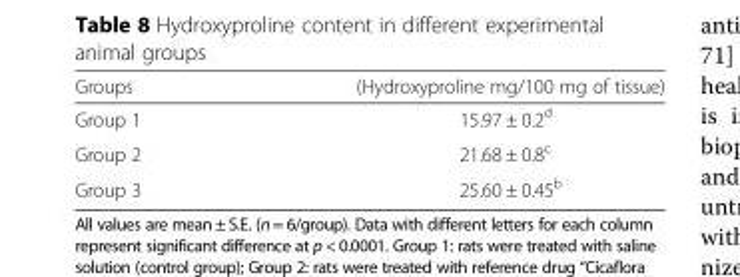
<table><thead><tr><td>Groups</td><td>(Hydroxyproline mg/100 mg of tissue)</td></tr></thead><tbody><tr><td>Group 1</td><td>15.97 ± 0.2d</td></tr><tr><td>Group 2</td><td>21.68 ± 0.8c</td></tr><tr><td>Group 3</td><td>25.60 ± 0.45b</td></tr></tbody></table>